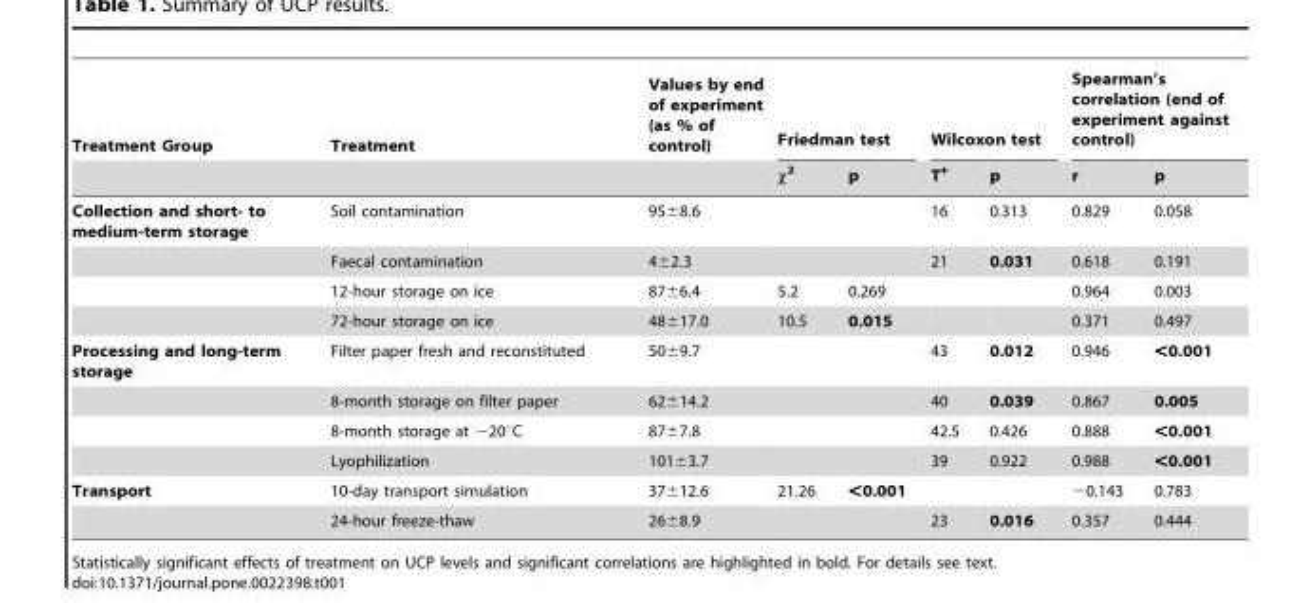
<table><thead><tr><td rowspan="2">Treatment Group</td><td rowspan="2">Treatment</td><td rowspan="2">Values by end of experiment (as % of control)</td><td colspan="2">Friedman test</td><td colspan="2">Wilcoxon test</td><td colspan="2">Spearman’s correlation (end of experiment against control)</td></tr><tr><td>χ<sup>2</sup></td><td>p</td><td>T<sup>+</sup></td><td>p</td><td>r</td><td>p</td></tr></thead><tbody><tr><td rowspan="4">Collection and short- to medium-term storage</td><td>Soil contamination</td><td>95±8.6</td><td></td><td></td><td>16</td><td>0.313</td><td>0.829</td><td>0.058</td></tr><tr><td>Faecal contamination</td><td>4±2.3</td><td></td><td></td><td>21</td><td>0.031</td><td>0.618</td><td>0.191</td></tr><tr><td>12-hour storage on ice</td><td>87±6.4</td><td>5.2</td><td>0.269</td><td></td><td></td><td>0.964</td><td>0.003</td></tr><tr><td>72-hour storage on ice</td><td>48±17.0</td><td>10.5</td><td>0.015</td><td></td><td></td><td>0.371</td><td>0.497</td></tr><tr><td rowspan="4">Processing and long-term storage</td><td>Filter paper fresh and reconstituted</td><td>50±9.7</td><td></td><td></td><td>43</td><td>0.012</td><td>0.946</td><td>&lt;0.001</td></tr><tr><td>8-month storage on filter paper</td><td>62±14.2</td><td></td><td></td><td>40</td><td>0.039</td><td>0.867</td><td>0.005</td></tr><tr><td>8-month storage at −20°C</td><td>87±7.8</td><td></td><td></td><td>42.5</td><td>0.426</td><td>0.888</td><td>&lt;0.001</td></tr><tr><td>Lyophilization</td><td>101±3.7</td><td></td><td></td><td>39</td><td>0.922</td><td>0.988</td><td>&lt;0.001</td></tr><tr><td rowspan="2">Transport</td><td>10-day transport simulation</td><td>37±12.6</td><td>21.26</td><td>&lt;0.001</td><td></td><td></td><td>−0.143</td><td>0.783</td></tr><tr><td>24-hour freeze-thaw</td><td>26±8.9</td><td></td><td></td><td>23</td><td>0.016</td><td>0.357</td><td>0.444</td></tr></tbody></table>